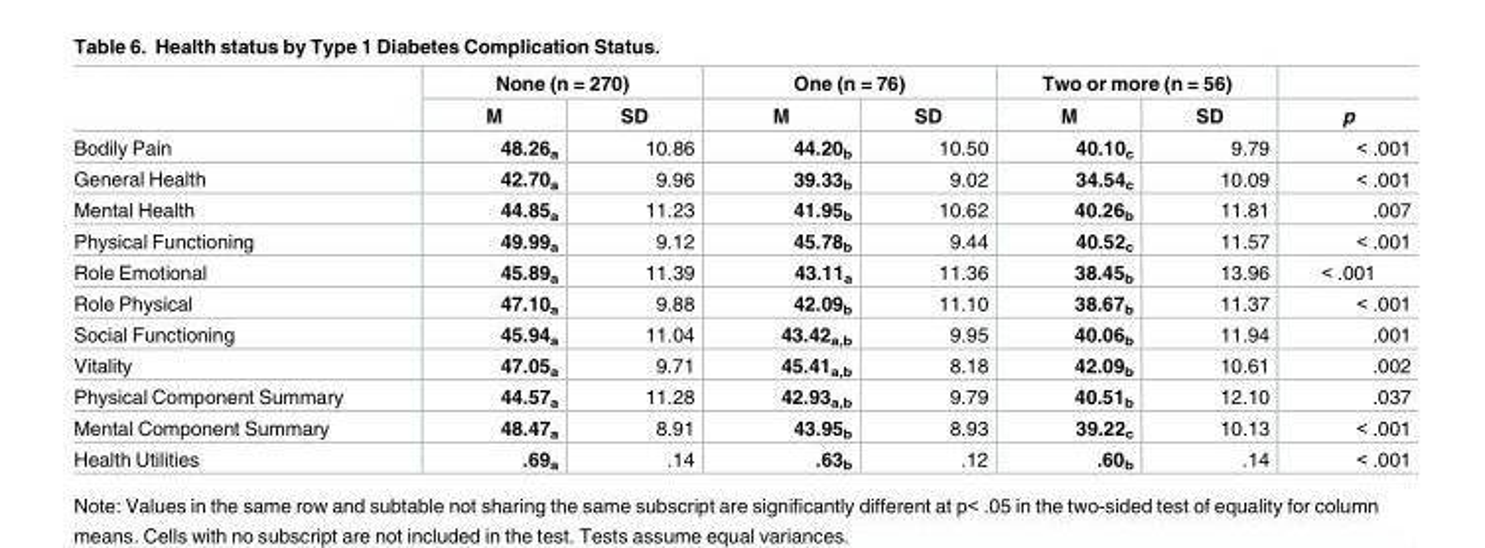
<table><thead><tr><td rowspan="2"></td><td colspan="2">None (n = 270)</td><td colspan="2">One (n = 76)</td><td colspan="2">Two or more (n = 56)</td><td rowspan="2">p</td></tr><tr><td>M</td><td>SD</td><td>M</td><td>SD</td><td>M</td><td>SD</td></tr></thead><tbody><tr><td>Bodily Pain</td><td>48.26<sub>a</sub></td><td>10.86</td><td>44.20<sub>b</sub></td><td>10.50</td><td>40.10<sub>c</sub></td><td>9.79</td><td>&lt; .001</td></tr><tr><td>General Health</td><td>42.70<sub>a</sub></td><td>9.96</td><td>39.33<sub>b</sub></td><td>9.02</td><td>34.54<sub>c</sub></td><td>10.09</td><td>&lt; .001</td></tr><tr><td>Mental Health</td><td>44.85<sub>a</sub></td><td>11.23</td><td>41.95<sub>b</sub></td><td>10.62</td><td>40.26<sub>b</sub></td><td>11.81</td><td>.007</td></tr><tr><td>Physical Functioning</td><td>49.99<sub>a</sub></td><td>9.12</td><td>45.78<sub>b</sub></td><td>9.44</td><td>40.52<sub>c</sub></td><td>11.57</td><td>&lt; .001</td></tr><tr><td>Role Emotional</td><td>45.89<sub>a</sub></td><td>11.39</td><td>43.11<sub>a</sub></td><td>11.36</td><td>38.45<sub>b</sub></td><td>13.96</td><td>&lt; .001</td></tr><tr><td>Role Physical</td><td>47.10<sub>a</sub></td><td>9.88</td><td>42.09<sub>b</sub></td><td>11.10</td><td>38.67<sub>b</sub></td><td>11.37</td><td>&lt; .001</td></tr><tr><td>Social Functioning</td><td>45.94<sub>a</sub></td><td>11.04</td><td>43.42<sub>a,b</sub></td><td>9.95</td><td>40.06<sub>b</sub></td><td>11.94</td><td>.001</td></tr><tr><td>Vitality</td><td>47.05<sub>a</sub></td><td>9.71</td><td>45.41<sub>a,b</sub></td><td>8.18</td><td>42.09<sub>b</sub></td><td>10.61</td><td>.002</td></tr><tr><td>Physical Component Summary</td><td>44.57<sub>a</sub></td><td>11.28</td><td>42.93<sub>a,b</sub></td><td>9.79</td><td>40.51<sub>b</sub></td><td>12.10</td><td>.037</td></tr><tr><td>Mental Component Summary</td><td>48.47<sub>a</sub></td><td>8.91</td><td>43.95<sub>b</sub></td><td>8.93</td><td>39.22<sub>c</sub></td><td>10.13</td><td>&lt; .001</td></tr><tr><td>Health Utilities</td><td>.69<sub>a</sub></td><td>.14</td><td>.63<sub>b</sub></td><td>.12</td><td>.60<sub>b</sub></td><td>.14</td><td>&lt; .001</td></tr></tbody></table>